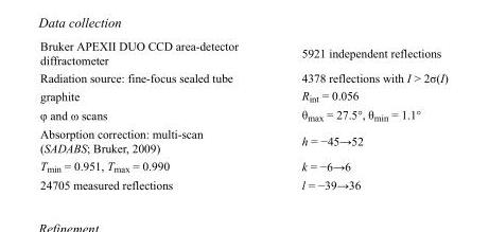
<table><tbody><tr><td>Bruker APEXII DUO CCD area-detector diffractometer</td><td>5921 independent reflections</td></tr><tr><td>Radiation source: fine-focus sealed tube</td><td>4378 reflections with I &gt; 2σ(I)</td></tr><tr><td>graphite</td><td>R<sub>int</sub> = 0.056</td></tr><tr><td>φ and ω scans</td><td>θ<sub>max</sub> = 27.5°, θ<sub>min</sub> = 1.1°</td></tr><tr><td>Absorption correction: multi-scan (SADABS; Bruker, 2009)</td><td>h = −45→52</td></tr><tr><td>T<sub>min</sub> = 0.951, T<sub>max</sub> = 0.990</td><td>k = −6→6</td></tr><tr><td>24705 measured reflections</td><td>l = −39→36</td></tr></tbody></table>